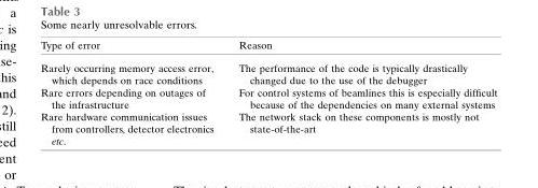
<table><thead><tr><td>Type of error</td><td>Reason</td></tr></thead><tbody><tr><td>Rarely occurring memory access error, which depends on race conditions</td><td>The performance of the code is typically drastically changed due to the use of the debugger</td></tr><tr><td>Rare errors depending on outages of the infrastructure</td><td>For control systems of beamlines this is especially difficult because of the dependencies on many external systems</td></tr><tr><td>Rare hardware communication issues from controllers, detector electronics etc.</td><td>The network stack on these components is mostly not state-of-the-art</td></tr></tbody></table>